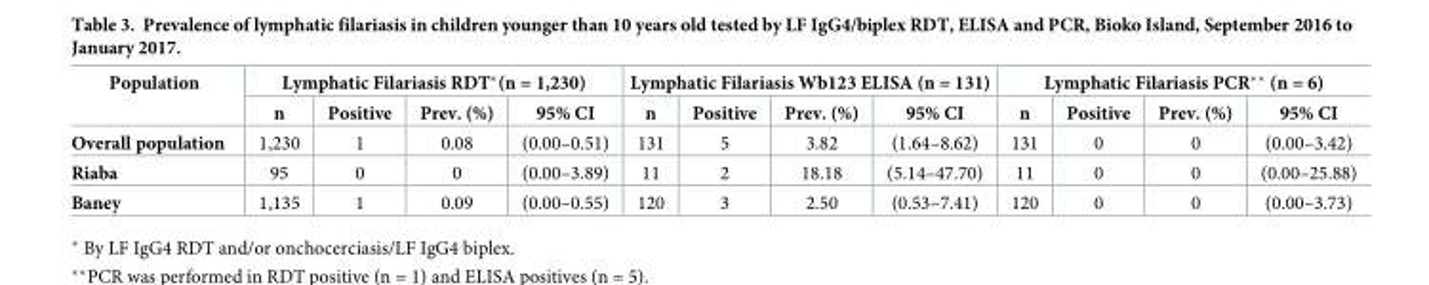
<table><thead><tr><td rowspan="2">Population</td><td colspan="4">Lymphatic Filariasis RDT*(n = 1,230)</td><td colspan="4">Lymphatic Filariasis Wb123 ELISA (n = 131)</td><td colspan="4">Lymphatic Filariasis PCR** (n = 6)</td></tr><tr><td>n</td><td>Positive</td><td>Prev. (%)</td><td>95% CI</td><td>n</td><td>Positive</td><td>Prev. (%)</td><td>95% CI</td><td>n</td><td>Positive</td><td>Prev. (%)</td><td>95% CI</td></tr></thead><tbody><tr><td>Overall population</td><td>1,230</td><td>1</td><td>0.08</td><td>(0.00–0.51)</td><td>131</td><td>5</td><td>3.82</td><td>(1.64–8.62)</td><td>131</td><td>0</td><td>0</td><td>(0.00–3.42)</td></tr><tr><td>Riaba</td><td>95</td><td>0</td><td>0</td><td>(0.00–3.89)</td><td>11</td><td>2</td><td>18.18</td><td>(5.14–47.70)</td><td>11</td><td>0</td><td>0</td><td>(0.00–25.88)</td></tr><tr><td>Baney</td><td>1,135</td><td>1</td><td>0.09</td><td>(0.00–0.55)</td><td>120</td><td>3</td><td>2.50</td><td>(0.53–7.41)</td><td>120</td><td>0</td><td>0</td><td>(0.00–3.73)</td></tr></tbody></table>